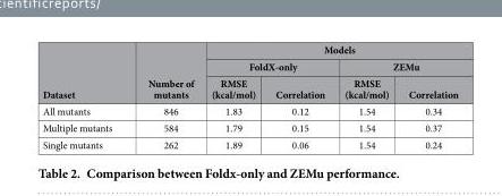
<table><thead><tr><td rowspan="3">Dataset</td><td rowspan="3">Number of mutants</td><td colspan="4">Models</td></tr><tr><td colspan="2">FoldX-only</td><td colspan="2">ZEMu</td></tr><tr><td>RMSE (kcal/mol)</td><td>Correlation</td><td>RMSE (kcal/mol)</td><td>Correlation</td></tr></thead><tbody><tr><td>All mutants</td><td>846</td><td>1.83</td><td>0.12</td><td>1.54</td><td>0.34</td></tr><tr><td>Multiple mutants</td><td>584</td><td>1.79</td><td>0.15</td><td>1.54</td><td>0.37</td></tr><tr><td>Single mutants</td><td>262</td><td>1.89</td><td>0.06</td><td>1.54</td><td>0.24</td></tr></tbody></table>